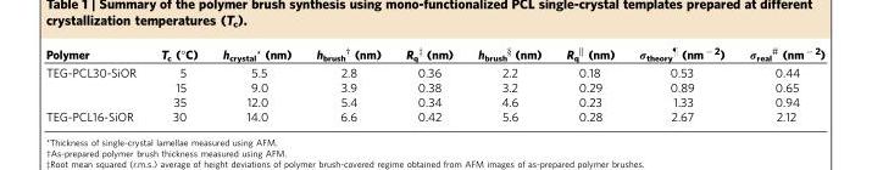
<table><thead><tr><td>Polymer</td><td>T<sub>c</sub> (°C)</td><td>h<sub>crystal</sub>* (nm)</td><td>h<sub>brush</sub>† (nm)</td><td>R<sub>q</sub>‡ (nm)</td><td>h<sub>brush</sub>§ (nm)</td><td>R<sub>q</sub>|| (nm)</td><td>σ<sub>theory</sub>¶ (nm <sup>− 2</sup>)</td><td>σ<sub>real</sub># (nm <sup>− 2</sup>)</td></tr></thead><tbody><tr><td rowspan="3">TEG-PCL30-SiOR</td><td>5</td><td>5.5</td><td>2.8</td><td>0.36</td><td>2.2</td><td>0.18</td><td>0.53</td><td>0.44</td></tr><tr><td>15</td><td>9.0</td><td>3.9</td><td>0.38</td><td>3.2</td><td>0.29</td><td>0.89</td><td>0.65</td></tr><tr><td>35</td><td>12.0</td><td>5.4</td><td>0.34</td><td>4.6</td><td>0.23</td><td>1.33</td><td>0.94</td></tr><tr><td>TEG-PCL16-SiOR</td><td>30</td><td>14.0</td><td>6.6</td><td>0.42</td><td>5.6</td><td>0.28</td><td>2.67</td><td>2.12</td></tr></tbody></table>